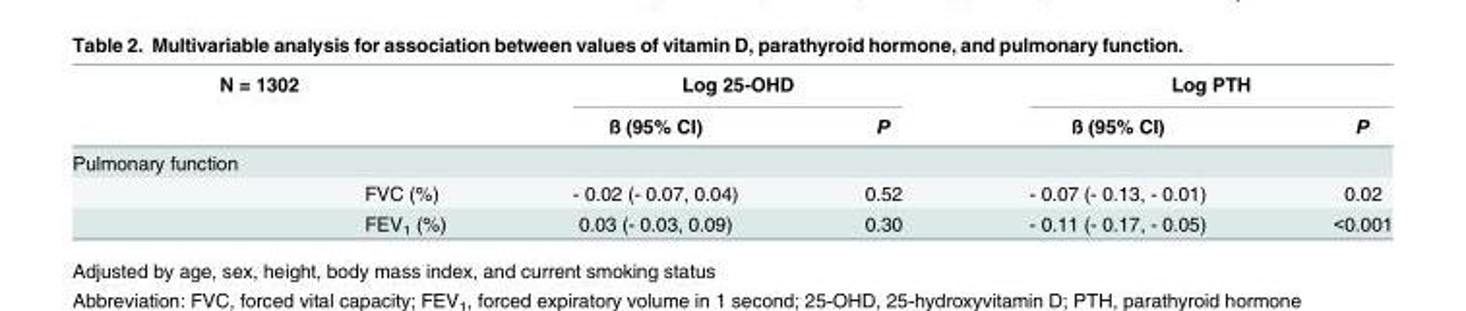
<table><thead><tr><td rowspan="2" colspan="2">N = 1302</td><td colspan="2">Log 25-OHD</td><td colspan="2">Log PTH</td></tr><tr><td rowspan="2">ß (95% CI)</td><td rowspan="2">P</td><td rowspan="2">ß (95% CI)</td><td rowspan="2">P</td></tr><tr><td>Pulmonary function</td><td></td></tr></thead><tbody><tr><td></td><td>FVC (%)</td><td>- 0.02 (- 0.07, 0.04)</td><td>0.52</td><td>- 0.07 (- 0.13, - 0.01)</td><td>0.02</td></tr><tr><td></td><td>FEV<sub>1</sub> (%)</td><td>0.03 (- 0.03, 0.09)</td><td>0.30</td><td>- 0.11 (- 0.17, - 0.05)</td><td>&lt;0.001</td></tr></tbody></table>